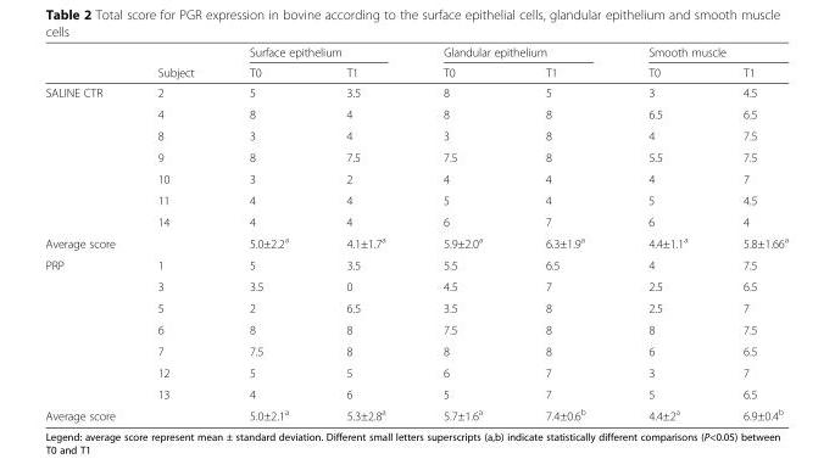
<table><thead><tr><td rowspan="2"></td><td rowspan="2">Subject</td><td colspan="2">Surface epithelium</td><td colspan="2">Glandular epithelium</td><td colspan="2">Smooth muscle</td></tr><tr><td>T0</td><td>T1</td><td>T0</td><td>T1</td><td>T0</td><td>T1</td></tr></thead><tbody><tr><td rowspan="7">SALINE CTR</td><td>2</td><td>5</td><td>3.5</td><td>8</td><td>5</td><td>3</td><td>4.5</td></tr><tr><td>4</td><td>8</td><td>4</td><td>8</td><td>8</td><td>6.5</td><td>6.5</td></tr><tr><td>8</td><td>3</td><td>4</td><td>3</td><td>8</td><td>4</td><td>7.5</td></tr><tr><td>9</td><td>8</td><td>7.5</td><td>7.5</td><td>8</td><td>5.5</td><td>7.5</td></tr><tr><td>10</td><td>3</td><td>2</td><td>4</td><td>4</td><td>4</td><td>7</td></tr><tr><td>11</td><td>4</td><td>4</td><td>5</td><td>4</td><td>5</td><td>4.5</td></tr><tr><td>14</td><td>4</td><td>4</td><td>6</td><td>7</td><td>6</td><td>4</td></tr><tr><td colspan="2">Average score</td><td>5.0±2.2<sup>a</sup></td><td>4.1±1.7<sup>a</sup></td><td>5.9±2.0<sup>a</sup></td><td>6.3±1.9<sup>a</sup></td><td>4.4±1.1<sup>a</sup></td><td>5.8±1.66<sup>a</sup></td></tr><tr><td rowspan="7">PRP</td><td>1</td><td>5</td><td>3.5</td><td>5.5</td><td>6.5</td><td>4</td><td>7.5</td></tr><tr><td>3</td><td>3.5</td><td>0</td><td>4.5</td><td>7</td><td>2.5</td><td>6.5</td></tr><tr><td>5</td><td>2</td><td>6.5</td><td>3.5</td><td>8</td><td>2.5</td><td>7</td></tr><tr><td>6</td><td>8</td><td>8</td><td>7.5</td><td>8</td><td>8</td><td>7.5</td></tr><tr><td>7</td><td>7.5</td><td>8</td><td>8</td><td>8</td><td>6</td><td>6.5</td></tr><tr><td>12</td><td>5</td><td>5</td><td>6</td><td>7</td><td>3</td><td>7</td></tr><tr><td>13</td><td>4</td><td>6</td><td>5</td><td>7</td><td>5</td><td>6.5</td></tr><tr><td colspan="2">Average score</td><td>5.0±2.1<sup>a</sup></td><td>5.3±2.8<sup>a</sup></td><td>5.7±1.6<sup>a</sup></td><td>7.4±0.6<sup>b</sup></td><td>4.4±2<sup>a</sup></td><td>6.9±0.4<sup>b</sup></td></tr></tbody></table>